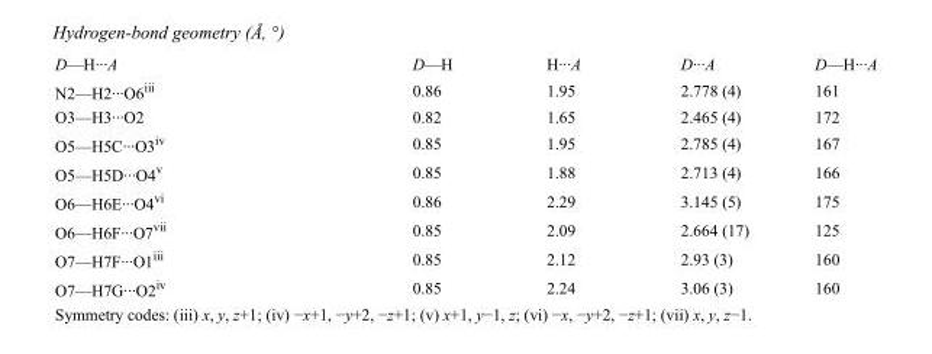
<table><tbody><tr><td>D—H···A</td><td>D—H</td><td>H···A</td><td>D···A</td><td>D—H···A</td></tr><tr><td>N2—H2···O6<sup>iii</sup></td><td>0.86</td><td>1.95</td><td>2.778 (4)</td><td>161</td></tr><tr><td>O3—H3···O2</td><td>0.82</td><td>1.65</td><td>2.465 (4)</td><td>172</td></tr><tr><td>O5—H5C···O3<sup>iv</sup></td><td>0.85</td><td>1.95</td><td>2.785 (4)</td><td>167</td></tr><tr><td>O5—H5D···O4<sup>v</sup></td><td>0.85</td><td>1.88</td><td>2.713 (4)</td><td>166</td></tr><tr><td>O6—H6E···O4<sup>vi</sup></td><td>0.86</td><td>2.29</td><td>3.145 (5)</td><td>175</td></tr><tr><td>O6—H6F···O7<sup>vii</sup></td><td>0.85</td><td>2.09</td><td>2.664 (17)</td><td>125</td></tr><tr><td>O7—H7F···O1<sup>iii</sup></td><td>0.85</td><td>2.12</td><td>2.93 (3)</td><td>160</td></tr><tr><td>O7—H7G···O2<sup>iv</sup></td><td>0.85</td><td>2.24</td><td>3.06 (3)</td><td>160</td></tr></tbody></table>